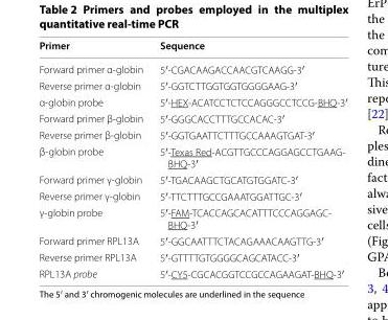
<table><thead><tr><td>Primer</td><td>Sequence</td></tr></thead><tbody><tr><td>Forward primer α-globin</td><td>5′-CGACAAGACCAACGTCAAGG-3′</td></tr><tr><td>Reverse primer α-globin</td><td>5′-GGTCTTGGTGGTGGGGAAG-3′</td></tr><tr><td>α-globin probe</td><td>5′-HEX-ACATCCTCTCCAGGGCCTCCG-BHQ-3′</td></tr><tr><td>Forward primer β-globin</td><td>5′-GGGCACCTTTGCCACAC-3′</td></tr><tr><td>Reverse primer β-globin</td><td>5′-GGTGAATTCTTTGCCAAAGTGAT-3′</td></tr><tr><td>β-globin probe</td><td>5′-Texas Red-ACGTTGCCCAGGAGCCTGAAG- BHQ-3′</td></tr><tr><td>Forward primer γ-globin</td><td>5′-TGACAAGCTGCATGTGGATC-3′</td></tr><tr><td>Reverse primer γ-globin</td><td>5′-TTCTTTGCCGAAATGGATTGC-3′</td></tr><tr><td>γ-globin probe</td><td>5′-FAM-TCACCAGCACATTTCCCAGGAGC- BHQ-3′</td></tr><tr><td>Forward primer RPL13A</td><td>5′-GGCAATTTCTACAGAAACAAGTTG-3′</td></tr><tr><td>Reverse primer RPL13A</td><td>5′-GTTTTGTGGGGCAGCATACC-3′</td></tr><tr><td>RPL13A probe</td><td>5′-CY5-CGCACGGTCCGCCAGAAGAT-BHQ-3′</td></tr></tbody></table>